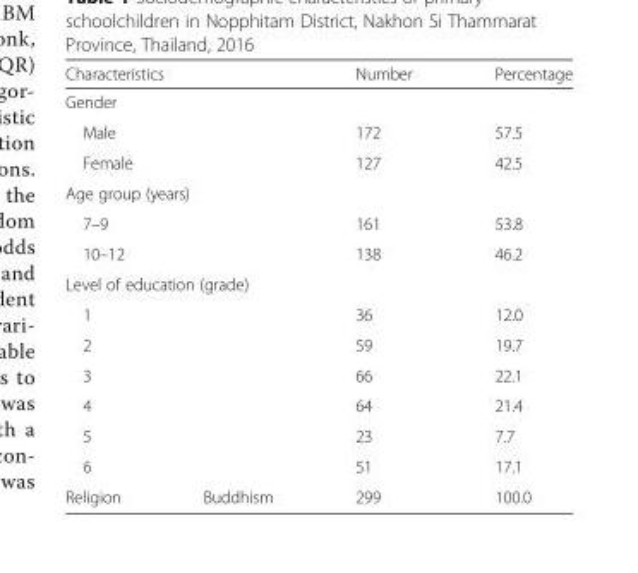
<table><thead><tr><td colspan="2">Characteristics</td><td>Number</td><td>Percentage</td></tr></thead><tbody><tr><td colspan="4">Gender</td></tr><tr><td colspan="2">Male</td><td>172</td><td>57.5</td></tr><tr><td colspan="2">Female</td><td>127</td><td>42.5</td></tr><tr><td colspan="4">Age group (years)</td></tr><tr><td colspan="2">7–9</td><td>161</td><td>53.8</td></tr><tr><td colspan="2">10–12</td><td>138</td><td>46.2</td></tr><tr><td colspan="4">Level of education (grade)</td></tr><tr><td colspan="2">1</td><td>36</td><td>12.0</td></tr><tr><td colspan="2">2</td><td>59</td><td>19.7</td></tr><tr><td colspan="2">3</td><td>66</td><td>22.1</td></tr><tr><td colspan="2">4</td><td>64</td><td>21.4</td></tr><tr><td colspan="2">5</td><td>23</td><td>7.7</td></tr><tr><td colspan="2">6</td><td>51</td><td>17.1</td></tr><tr><td>Religion</td><td>Buddhism</td><td>299</td><td>100.0</td></tr></tbody></table>